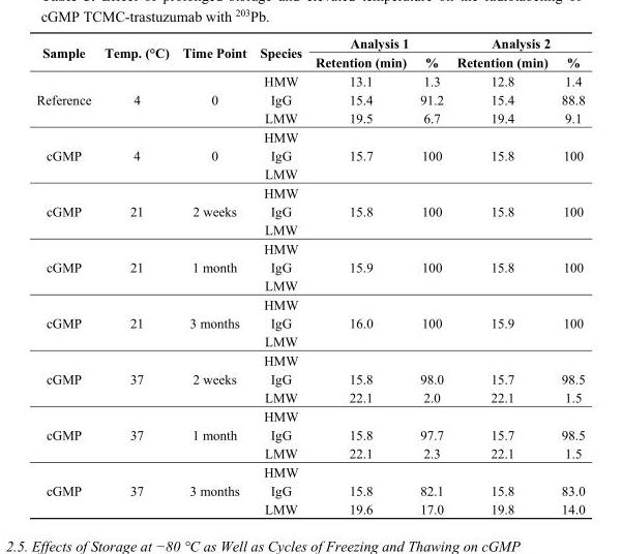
<table><thead><tr><td rowspan="2">Sample</td><td rowspan="2">Temp. (°C)</td><td rowspan="2">Time Point</td><td rowspan="2">Species</td><td colspan="2">Analysis 1</td><td colspan="2">Analysis 2</td></tr><tr><td>Retention (min)</td><td>%</td><td>Retention (min)</td><td>%</td></tr></thead><tbody><tr><td rowspan="3">Reference</td><td rowspan="3">4</td><td rowspan="3">0</td><td>HMW</td><td>13.1</td><td>1.3</td><td>12.8</td><td>1.4</td></tr><tr><td>IgG</td><td>15.4</td><td>91.2</td><td>15.4</td><td>88.8</td></tr><tr><td>LMW</td><td>19.5</td><td>6.7</td><td>19.4</td><td>9.1</td></tr><tr><td rowspan="3">cGMP</td><td rowspan="3">4</td><td rowspan="3">0</td><td>HMW</td><td></td><td></td><td></td><td></td></tr><tr><td>IgG</td><td>15.7</td><td>100</td><td>15.8</td><td>100</td></tr><tr><td>LMW</td><td></td><td></td><td></td><td></td></tr><tr><td rowspan="3">cGMP</td><td rowspan="3">21</td><td rowspan="3">2 weeks</td><td>HMW</td><td></td><td></td><td></td><td></td></tr><tr><td>IgG</td><td>15.8</td><td>100</td><td>15.8</td><td>100</td></tr><tr><td>LMW</td><td></td><td></td><td></td><td></td></tr><tr><td rowspan="3">cGMP</td><td rowspan="3">21</td><td rowspan="3">1 month</td><td>HMW</td><td></td><td></td><td></td><td></td></tr><tr><td>IgG</td><td>15.9</td><td>100</td><td>15.8</td><td>100</td></tr><tr><td>LMW</td><td></td><td></td><td></td><td></td></tr><tr><td rowspan="3">cGMP</td><td rowspan="3">21</td><td rowspan="3">3 months</td><td>HMW</td><td></td><td></td><td></td><td></td></tr><tr><td>IgG</td><td>16.0</td><td>100</td><td>15.9</td><td>100</td></tr><tr><td>LMW</td><td></td><td></td><td></td><td></td></tr><tr><td rowspan="3">cGMP</td><td rowspan="3">37</td><td rowspan="3">2 weeks</td><td>HMW</td><td></td><td></td><td></td><td></td></tr><tr><td>IgG</td><td>15.8</td><td>98.0</td><td>15.7</td><td>98.5</td></tr><tr><td>LMW</td><td>22.1</td><td>2.0</td><td>22.1</td><td>1.5</td></tr><tr><td rowspan="3">cGMP</td><td rowspan="3">37</td><td rowspan="3">1 month</td><td>HMW</td><td></td><td></td><td></td><td></td></tr><tr><td>IgG</td><td>15.8</td><td>97.7</td><td>15.7</td><td>98.5</td></tr><tr><td>LMW</td><td>22.1</td><td>2.3</td><td>22.1</td><td>1.5</td></tr><tr><td rowspan="3">cGMP</td><td rowspan="3">37</td><td rowspan="3">3 months</td><td>HMW</td><td></td><td></td><td></td><td></td></tr><tr><td>IgG</td><td>15.8</td><td>82.1</td><td>15.8</td><td>83.0</td></tr><tr><td>LMW</td><td>19.6</td><td>17.0</td><td>19.8</td><td>14.0</td></tr></tbody></table>